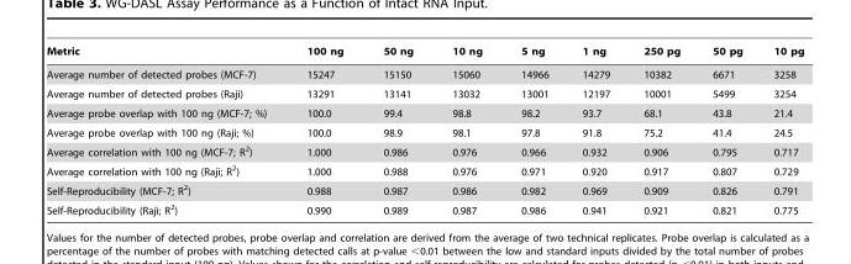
<table><thead><tr><td>Metric</td><td>100 ng</td><td>50 ng</td><td>10 ng</td><td>5 ng</td><td>1 ng</td><td>250 pg</td><td>50 pg</td><td>10 pg</td></tr></thead><tbody><tr><td>Average number of detected probes (MCF-7)</td><td>15247</td><td>15150</td><td>15060</td><td>14966</td><td>14279</td><td>10382</td><td>6671</td><td>3258</td></tr><tr><td>Average number of detected probes (Raji)</td><td>13291</td><td>13141</td><td>13032</td><td>13001</td><td>12197</td><td>10001</td><td>5499</td><td>3254</td></tr><tr><td>Average probe overlap with 100 ng (MCF-7; %)</td><td>100.0</td><td>99.4</td><td>98.8</td><td>98.2</td><td>93.7</td><td>68.1</td><td>43.8</td><td>21.4</td></tr><tr><td>Average probe overlap with 100 ng (Raji; %)</td><td>100.0</td><td>98.9</td><td>98.1</td><td>97.8</td><td>91.8</td><td>75.2</td><td>41.4</td><td>24.5</td></tr><tr><td>Average correlation with 100 ng (MCF-7; R<sup>2</sup>)</td><td>1.000</td><td>0.986</td><td>0.976</td><td>0.966</td><td>0.932</td><td>0.906</td><td>0.795</td><td>0.717</td></tr><tr><td>Average correlation with 100 ng (Raji; R<sup>2</sup>)</td><td>1.000</td><td>0.988</td><td>0.976</td><td>0.971</td><td>0.920</td><td>0.917</td><td>0.807</td><td>0.729</td></tr><tr><td>Self-Reproducibility (MCF-7; R<sup>2</sup>)</td><td>0.988</td><td>0.987</td><td>0.986</td><td>0.982</td><td>0.969</td><td>0.909</td><td>0.826</td><td>0.791</td></tr><tr><td>Self-Reproducibility (Raji; R<sup>2</sup>)</td><td>0.990</td><td>0.989</td><td>0.987</td><td>0.986</td><td>0.941</td><td>0.921</td><td>0.821</td><td>0.775</td></tr></tbody></table>